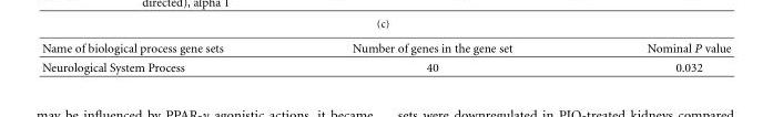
<table><thead><tr><td>Name of biological process gene sets</td><td>Number of genes in the gene set</td><td>Nominal P value</td></tr></thead><tbody><tr><td>Neurological System Process</td><td>40</td><td>0.032</td></tr></tbody></table>